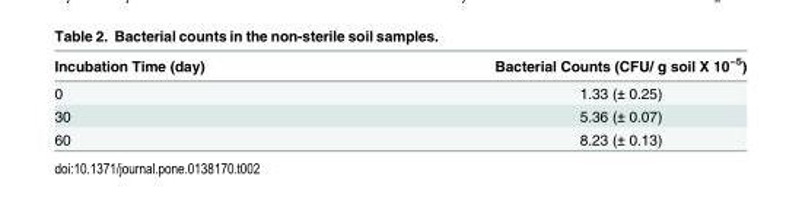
<table><thead><tr><td>Incubation Time (day)</td><td>Bacterial Counts (CFU/ g soil X 10<sup>−5</sup>)</td></tr></thead><tbody><tr><td>0</td><td>1.33 (± 0.25)</td></tr><tr><td>30</td><td>5.36 (± 0.07)</td></tr><tr><td>60</td><td>8.23 (± 0.13)</td></tr></tbody></table>